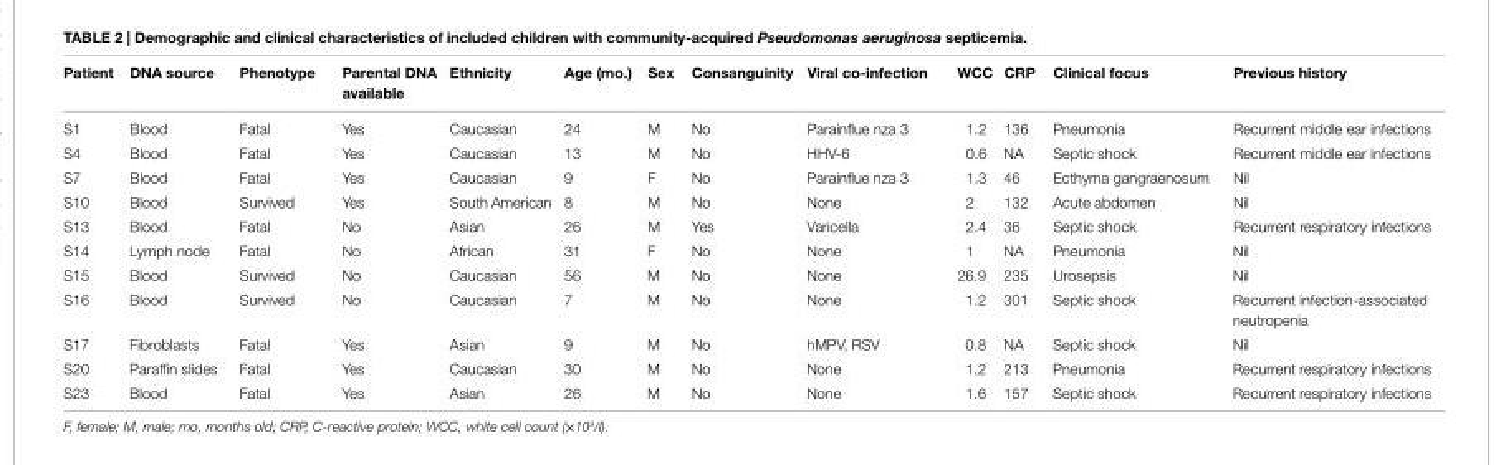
<table><thead><tr><td>Patient</td><td>Dna source</td><td>Phenotype</td><td>Parental Dna available</td><td>ethnicity</td><td>age (mo.)</td><td>sex</td><td>consanguinity</td><td>Viral co-infection</td><td>Wcc</td><td>crP</td><td>clinical focus</td><td>Previous history</td></tr></thead><tbody><tr><td>S1</td><td>Blood</td><td>Fatal</td><td>Yes</td><td>Caucasian</td><td>24</td><td>M</td><td>No</td><td>Parainflue nza 3</td><td>1.2</td><td>136</td><td>Pneumonia</td><td>Recurrent middle ear infections</td></tr><tr><td>S4</td><td>Blood</td><td>Fatal</td><td>Yes</td><td>Caucasian</td><td>13</td><td>M</td><td>No</td><td>HHV-6</td><td>0.6</td><td>NA</td><td>Septic shock</td><td>Recurrent middle ear infections</td></tr><tr><td>S7</td><td>Blood</td><td>Fatal</td><td>Yes</td><td>Caucasian</td><td>9</td><td>F</td><td>No</td><td>Parainflue nza 3</td><td>1.3</td><td>46</td><td>Ecthyma gangraenosum</td><td>Nil</td></tr><tr><td>S10</td><td>Blood</td><td>Survived</td><td>Yes</td><td>South American</td><td>8</td><td>M</td><td>No</td><td>None</td><td>2</td><td>132</td><td>Acute abdomen</td><td>Nil</td></tr><tr><td>S13</td><td>Blood</td><td>Fatal</td><td>No</td><td>Asian</td><td>26</td><td>M</td><td>Yes</td><td>Varicella</td><td>2.4</td><td>36</td><td>Septic shock</td><td>Recurrent respiratory infections</td></tr><tr><td>S14</td><td>Lymph node</td><td>Fatal</td><td>No</td><td>African</td><td>31</td><td>F</td><td>No</td><td>None</td><td>1</td><td>NA</td><td>Pneumonia</td><td>Nil</td></tr><tr><td>S15</td><td>Blood</td><td>Survived</td><td>No</td><td>Caucasian</td><td>56</td><td>M</td><td>No</td><td>None</td><td>26.9</td><td>235</td><td>Urosepsis</td><td>Nil</td></tr><tr><td>S16</td><td>Blood</td><td>Survived</td><td>No</td><td>Caucasian</td><td>7</td><td>M</td><td>No</td><td>None</td><td>1.2</td><td>301</td><td>Septic shock</td><td>Recurrent infection-associated neutropenia</td></tr><tr><td>S17</td><td>Fibroblasts</td><td>Fatal</td><td>Yes</td><td>Asian</td><td>9</td><td>M</td><td>No</td><td>hMPV, RSV</td><td>0.8</td><td>NA</td><td>Septic shock</td><td>Nil</td></tr><tr><td>S20</td><td>Paraffin slides</td><td>Fatal</td><td>Yes</td><td>Caucasian</td><td>30</td><td>M</td><td>No</td><td>None</td><td>1.2</td><td>213</td><td>Pneumonia</td><td>Recurrent respiratory infections</td></tr><tr><td>S23</td><td>Blood</td><td>Fatal</td><td>Yes</td><td>Asian</td><td>26</td><td>M</td><td>No</td><td>None</td><td>1.6</td><td>157</td><td>Septic shock</td><td>Recurrent respiratory infections</td></tr></tbody></table>